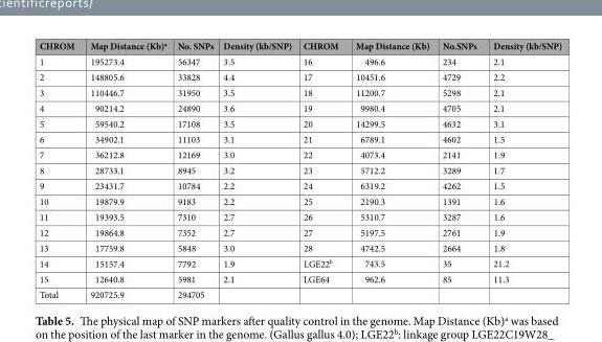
<table><thead><tr><td>CHROM</td><td>Map Distance (Kb)<sup>a</sup></td><td>No. SNPs</td><td>Density (kb/SNP)</td><td>CHROM</td><td>Map Distance (Kb)</td><td>No.SNPs</td><td>Density (kb/SNP)</td></tr></thead><tbody><tr><td>1</td><td>195273.4</td><td>56347</td><td>3.5</td><td>16</td><td>496.6</td><td>234</td><td>2.1</td></tr><tr><td>2</td><td>148805.6</td><td>33828</td><td>4.4</td><td>17</td><td>10451.6</td><td>4729</td><td>2.2</td></tr><tr><td>3</td><td>110446.7</td><td>31950</td><td>3.5</td><td>18</td><td>11200.7</td><td>5298</td><td>2.1</td></tr><tr><td>4</td><td>90214.2</td><td>24890</td><td>3.6</td><td>19</td><td>9980.4</td><td>4705</td><td>2.1</td></tr><tr><td>5</td><td>59540.2</td><td>17108</td><td>3.5</td><td>20</td><td>14299.5</td><td>4632</td><td>3.1</td></tr><tr><td>6</td><td>34902.1</td><td>11103</td><td>3.1</td><td>21</td><td>6789.1</td><td>4602</td><td>1.5</td></tr><tr><td>7</td><td>36212.8</td><td>12169</td><td>3.0</td><td>22</td><td>4073.4</td><td>2141</td><td>1.9</td></tr><tr><td>8</td><td>28733.1</td><td>8945</td><td>3.2</td><td>23</td><td>5712.2</td><td>3289</td><td>1.7</td></tr><tr><td>9</td><td>23431.7</td><td>10784</td><td>2.2</td><td>24</td><td>6319.2</td><td>4262</td><td>1.5</td></tr><tr><td>10</td><td>19879.9</td><td>9183</td><td>2.2</td><td>25</td><td>2190.3</td><td>1391</td><td>1.6</td></tr><tr><td>11</td><td>19393.5</td><td>7310</td><td>2.7</td><td>26</td><td>5310.7</td><td>3287</td><td>1.6</td></tr><tr><td>12</td><td>19864.8</td><td>7352</td><td>2.7</td><td>27</td><td>5197.5</td><td>2761</td><td>1.9</td></tr><tr><td>13</td><td>17759.8</td><td>5848</td><td>3.0</td><td>28</td><td>4742.5</td><td>2664</td><td>1.8</td></tr><tr><td>14</td><td>15157.4</td><td>7792</td><td>1.9</td><td>LGE22<sup>b</sup></td><td>743.5</td><td>35</td><td>21.2</td></tr><tr><td>15</td><td>12640.8</td><td>5981</td><td>2.1</td><td>LGE64</td><td>962.6</td><td>85</td><td>11.3</td></tr><tr><td>Total</td><td>920725.9</td><td>294705</td><td></td><td></td><td></td><td></td><td></td></tr></tbody></table>